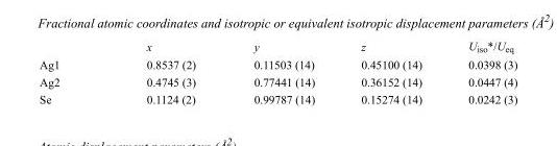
<table><thead><tr><td></td><td>x</td><td>y</td><td>z</td><td>U<sub>iso</sub>*/U<sub>eq</sub></td></tr></thead><tbody><tr><td>Ag1</td><td>0.8537 (2)</td><td>0.11503 (14)</td><td>0.45100 (14)</td><td>0.0398 (3)</td></tr><tr><td>Ag2</td><td>0.4745 (3)</td><td>0.77441 (14)</td><td>0.36152 (14)</td><td>0.0447 (4)</td></tr><tr><td>Se</td><td>0.1124 (2)</td><td>0.99787 (14)</td><td>0.15274 (14)</td><td>0.0242 (3)</td></tr></tbody></table>